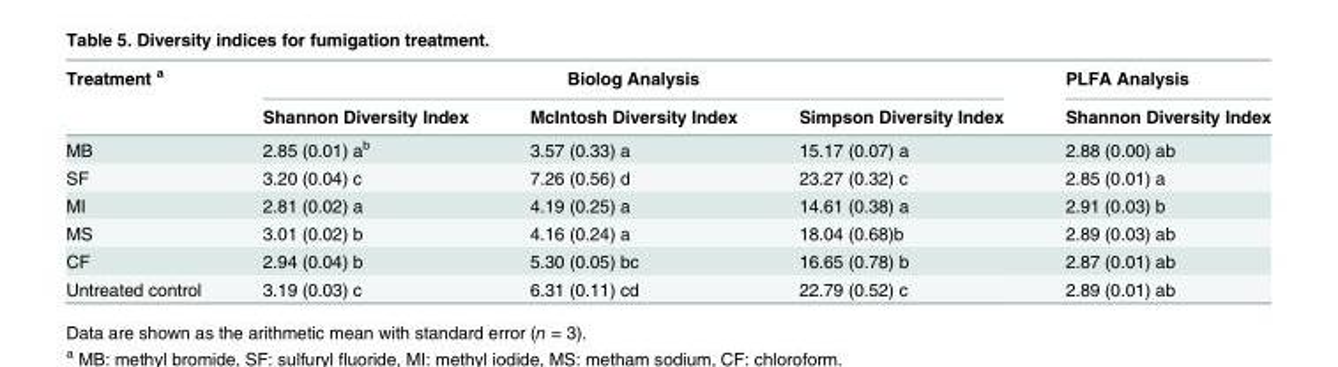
<table><thead><tr><td rowspan="2">Treatment <sup>a</sup></td><td colspan="3">Biolog Analysis</td><td rowspan="2">PLFA Analysis Shannon Diversity Index</td></tr><tr><td>Shannon Diversity Index</td><td>McIntosh Diversity Index</td><td>Simpson Diversity Index</td></tr></thead><tbody><tr><td>MB</td><td>2.85 (0.01) a<sup>b</sup></td><td>3.57 (0.33) a</td><td>15.17 (0.07) a</td><td>2.88 (0.00) ab</td></tr><tr><td>SF</td><td>3.20 (0.04) c</td><td>7.26 (0.56) d</td><td>23.27 (0.32) c</td><td>2.85 (0.01) a</td></tr><tr><td>MI</td><td>2.81 (0.02) a</td><td>4.19 (0.25) a</td><td>14.61 (0.38) a</td><td>2.91 (0.03) b</td></tr><tr><td>MS</td><td>3.01 (0.02) b</td><td>4.16 (0.24) a</td><td>18.04 (0.68)b</td><td>2.89 (0.03) ab</td></tr><tr><td>CF</td><td>2.94 (0.04) b</td><td>5.30 (0.05) bc</td><td>16.65 (0.78) b</td><td>2.87 (0.01) ab</td></tr><tr><td>Untreated control</td><td>3.19 (0.03) c</td><td>6.31 (0.11) cd</td><td>22.79 (0.52) c</td><td>2.89 (0.01) ab</td></tr></tbody></table>